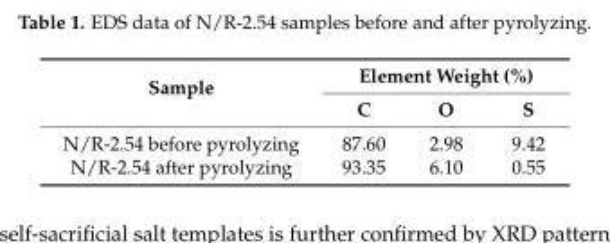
<table><thead><tr><td rowspan="2">Sample</td><td colspan="3">Element Weight (%)</td></tr><tr><td>C</td><td>O</td><td>S</td></tr></thead><tbody><tr><td>N/R-2.54 before pyrolyzing</td><td>87.60</td><td>2.98</td><td>9.42</td></tr><tr><td>N/R-2.54 after pyrolyzing</td><td>93.35</td><td>6.10</td><td>0.55</td></tr></tbody></table>